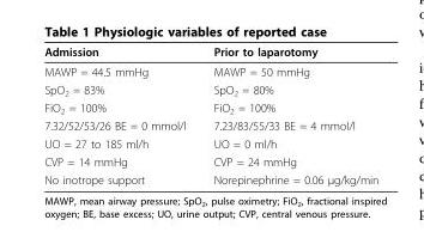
<table><thead><tr><td>Admission</td><td>Prior to laparotomy</td></tr></thead><tbody><tr><td>MAWP = 44.5 mmHg</td><td>MAWP = 50 mmHg</td></tr><tr><td>SpO<sub>2</sub> = 83%</td><td>SpO<sub>2</sub> = 80%</td></tr><tr><td>FiO<sub>2</sub> = 100%</td><td>FiO<sub>2</sub> = 100%</td></tr><tr><td>7.32/52/53/26 BE = 0 mmol/l</td><td>7.23/83/55/33 BE = 4 mmol/l</td></tr><tr><td>UO = 27 to 185 ml/h</td><td>UO = 0 ml/h</td></tr><tr><td>CVP = 14 mmHg</td><td>CVP = 24 mmHg</td></tr><tr><td>No inotrope support</td><td>Norepinephrine = 0.06 μg/kg/min</td></tr></tbody></table>